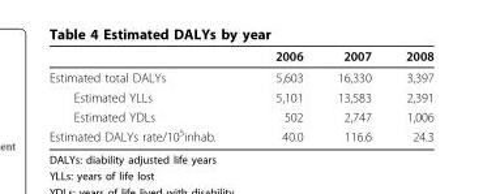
<table><thead><tr><td></td><td>2006</td><td>2007</td><td>2008</td></tr></thead><tbody><tr><td>Estimated total DALYs</td><td>5,603</td><td>16,330</td><td>3,397</td></tr><tr><td>Estimated YLLs</td><td>5,101</td><td>13,583</td><td>2,391</td></tr><tr><td>Estimated YDLs</td><td>502</td><td>2,747</td><td>1,006</td></tr><tr><td>Estimated DALYs rate/10<sup>5</sup>inhab.</td><td>40.0</td><td>116.6</td><td>24.3</td></tr></tbody></table>